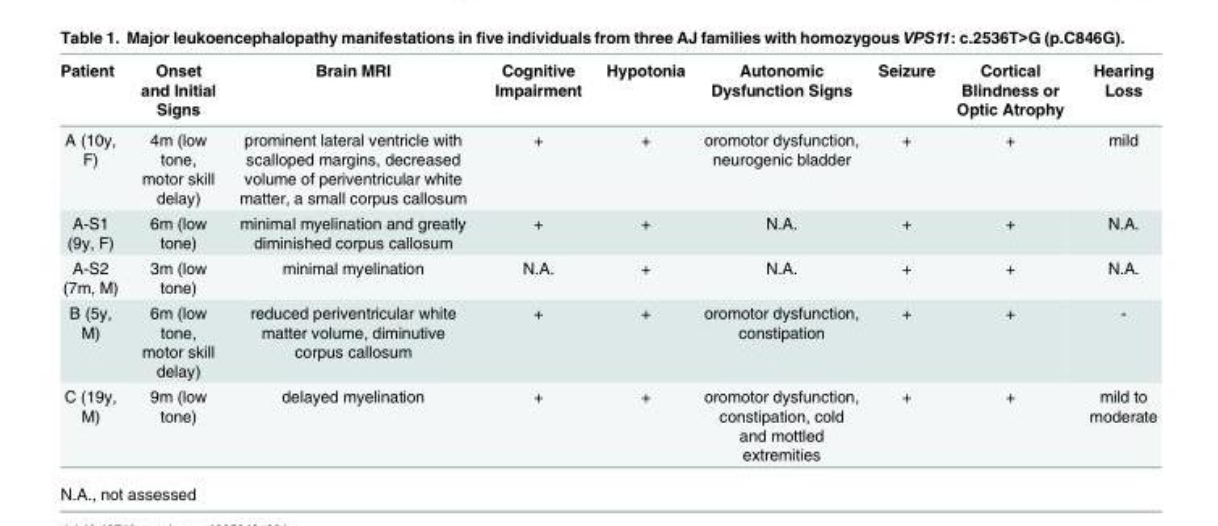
<table><thead><tr><td>Patient</td><td>Onset and Initial Signs</td><td>Brain MRI</td><td>Cognitive Impairment</td><td>Hypotonia</td><td>Autonomic Dysfunction Signs</td><td>Seizure</td><td>Cortical Blindness or Optic Atrophy</td><td>Hearing Loss</td></tr></thead><tbody><tr><td>A (10y, F)</td><td>4m (low tone, motor skill delay)</td><td>prominent lateral ventricle with scalloped margins, decreased volume of periventricular white matter, a small corpus callosum</td><td>+</td><td>+</td><td>oromotor dysfunction, neurogenic bladder</td><td>+</td><td>+</td><td>mild</td></tr><tr><td>A-S1 (9y, F)</td><td>6m (low tone)</td><td>minimal myelination and greatly diminished corpus callosum</td><td>+</td><td>+</td><td>N.A.</td><td>+</td><td>+</td><td>N.A.</td></tr><tr><td>A-S2 (7m, M)</td><td>3m (low tone)</td><td>minimal myelination</td><td>N.A.</td><td>+</td><td>N.A.</td><td>+</td><td>+</td><td>N.A.</td></tr><tr><td>B (5y, M)</td><td>6m (low tone, motor skill delay)</td><td>reduced periventricular white matter volume, diminutive corpus callosum</td><td>+</td><td>+</td><td>oromotor dysfunction, constipation</td><td>+</td><td>+</td><td>-</td></tr><tr><td>C (19y, M)</td><td>9m (low tone)</td><td>delayed myelination</td><td>+</td><td>+</td><td>oromotor dysfunction, constipation, cold and mottled extremities</td><td>+</td><td>+</td><td>mild to moderate</td></tr></tbody></table>